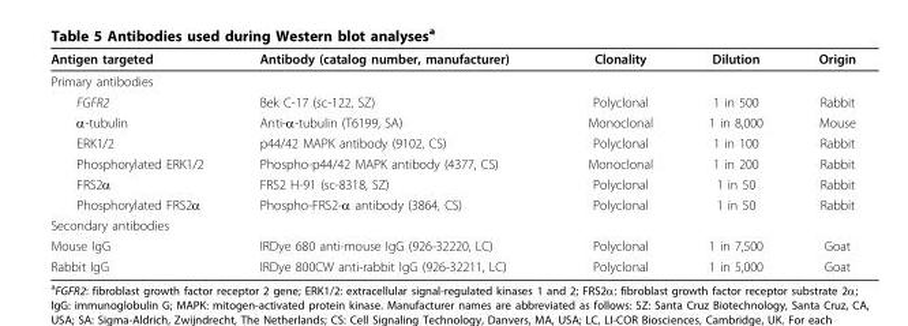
<table><thead><tr><td>Antigen targeted</td><td>Antibody (catalog number, manufacturer)</td><td>Clonality</td><td>Dilution</td><td>Origin</td></tr></thead><tbody><tr><td colspan="5">Primary antibodies</td></tr><tr><td>FGFR2</td><td>Bek C-17 (sc-122, SZ)</td><td>Polyclonal</td><td>1 in 500</td><td>Rabbit</td></tr><tr><td>α-tubulin</td><td>Anti-α-tubulin (T6199, SA)</td><td>Monoclonal</td><td>1 in 8,000</td><td>Mouse</td></tr><tr><td>ERK1/2</td><td>p44/42 MAPK antibody (9102, CS)</td><td>Polyclonal</td><td>1 in 100</td><td>Rabbit</td></tr><tr><td>Phosphorylated ERK1/2</td><td>Phospho-p44/42 MAPK antibody (4377, CS)</td><td>Monoclonal</td><td>1 in 200</td><td>Rabbit</td></tr><tr><td>FRS2α</td><td>FRS2 H-91 (sc-8318, SZ)</td><td>Polyclonal</td><td>1 in 50</td><td>Rabbit</td></tr><tr><td>Phosphorylated FRS2α</td><td>Phospho-FRS2-α antibody (3864, CS)</td><td>Polyclonal</td><td>1 in 50</td><td>Rabbit</td></tr><tr><td colspan="5">Secondary antibodies</td></tr><tr><td>Mouse IgG</td><td>IRDye 680 anti-mouse IgG (926-32220, LC)</td><td>Polyclonal</td><td>1 in 7,500</td><td>Goat</td></tr><tr><td>Rabbit IgG</td><td>IRDye 800CW anti-rabbit IgG (926-32211, LC)</td><td>Polyclonal</td><td>1 in 5,000</td><td>Goat</td></tr></tbody></table>